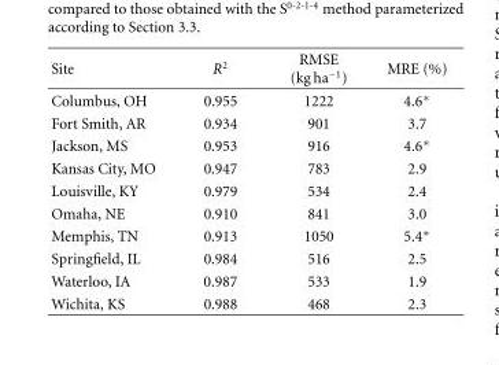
<table><thead><tr><td>Site</td><td>R<sup>2</sup></td><td>RMSE (kg ha<sup>−1</sup>)</td><td>MRE (%)</td></tr></thead><tbody><tr><td>Columbus, OH</td><td>0.955</td><td>1222</td><td>4.6∗</td></tr><tr><td>Fort Smith, AR</td><td>0.934</td><td>901</td><td>3.7</td></tr><tr><td>Jackson, MS</td><td>0.953</td><td>916</td><td>4.6∗</td></tr><tr><td>Kansas City, MO</td><td>0.947</td><td>783</td><td>2.9</td></tr><tr><td>Louisville, KY</td><td>0.979</td><td>534</td><td>2.4</td></tr><tr><td>Omaha, NE</td><td>0.910</td><td>841</td><td>3.0</td></tr><tr><td>Memphis, TN</td><td>0.913</td><td>1050</td><td>5.4∗</td></tr><tr><td>Springfield, IL</td><td>0.984</td><td>516</td><td>2.5</td></tr><tr><td>Waterloo, IA</td><td>0.987</td><td>533</td><td>1.9</td></tr><tr><td>Wichita, KS</td><td>0.988</td><td>468</td><td>2.3</td></tr></tbody></table>